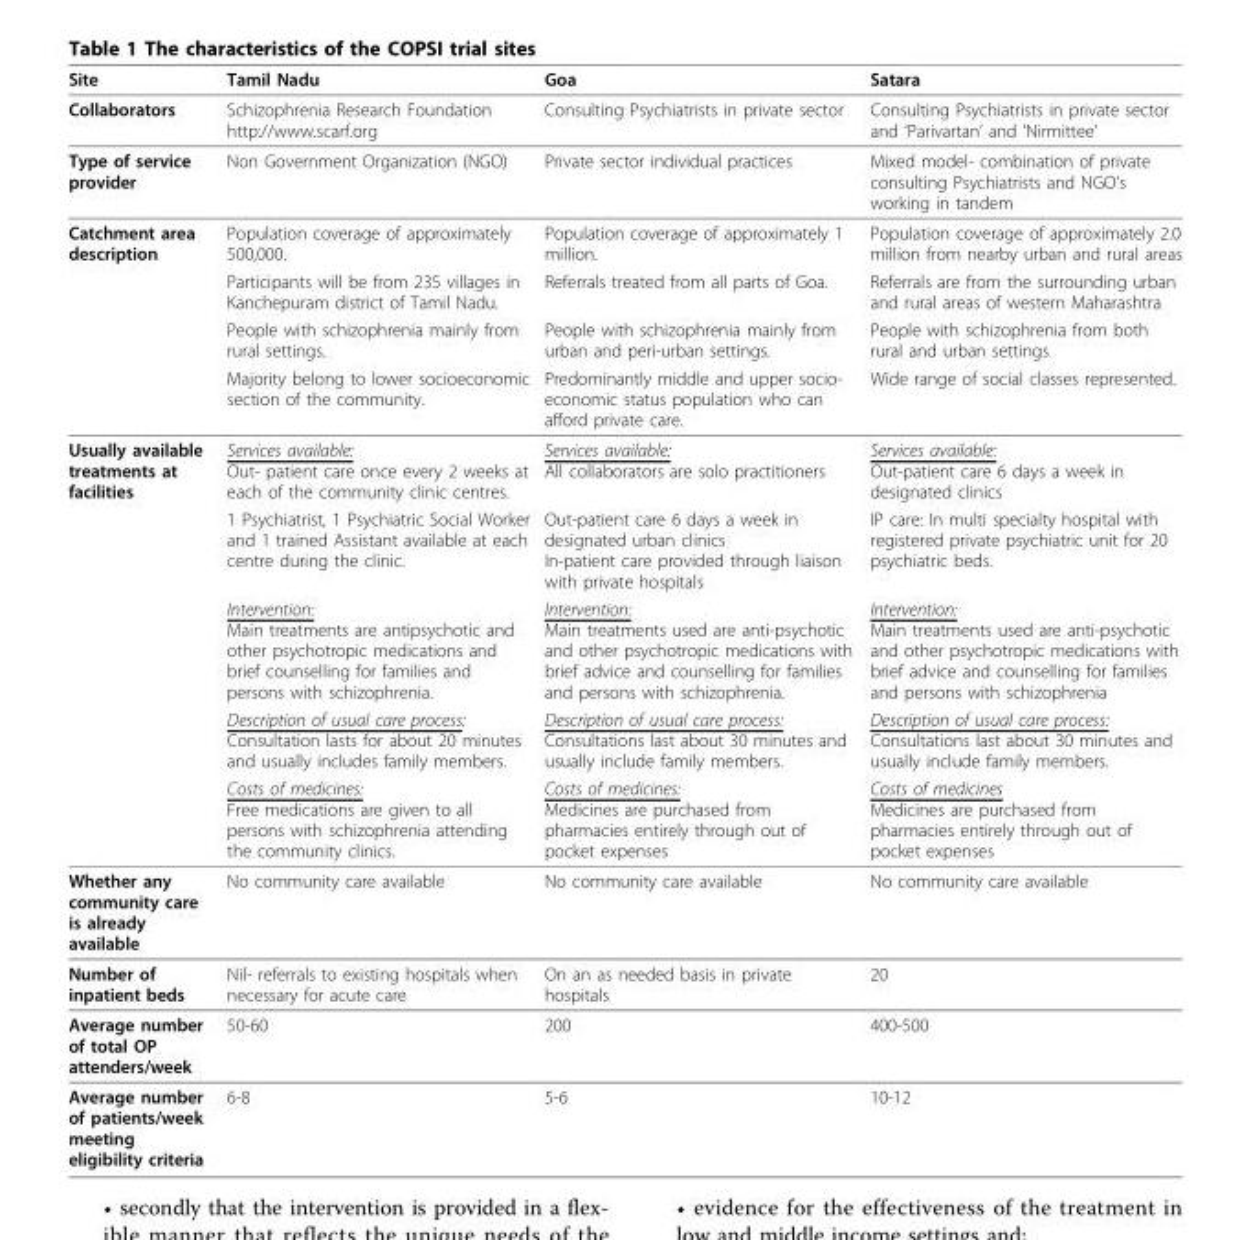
<table><thead><tr><td>Site</td><td>Tamil Nadu</td><td>Goa</td><td>Satara</td></tr></thead><tbody><tr><td>Collaborators</td><td>Schizophrenia Research Foundation http://www.scarf.org</td><td>Consulting Psychiatrists in private sector</td><td>Consulting Psychiatrists in private sector and ‘Parivartan’ and ‘Nirmittee’</td></tr><tr><td>Type of service provider</td><td>Non Government Organization (NGO)</td><td>Private sector individual practices</td><td>Mixed model- combination of private consulting Psychiatrists and NGO’s working in tandem</td></tr><tr><td rowspan="4">Catchment area description</td><td>Population coverage of approximately 500,000.</td><td>Population coverage of approximately 1 million.</td><td>Population coverage of approximately 2.0 million from nearby urban and rural areas</td></tr><tr><td>Participants will be from 235 villages in Kanchepuram district of Tamil Nadu.</td><td>Referrals treated from all parts of Goa.</td><td>Referrals are from the surrounding urban and rural areas of western Maharashtra</td></tr><tr><td>People with schizophrenia mainly from rural settings.</td><td>People with schizophrenia mainly from urban and peri-urban settings.</td><td>People with schizophrenia from both rural and urban settings</td></tr><tr><td>Majority belong to lower socioeconomic section of the community.</td><td>Predominantly middle and upper socio- economic status population who can afford private care.</td><td>Wide range of social classes represented.</td></tr><tr><td rowspan="5">Usually available treatments at facilities</td><td>Services available: Out- patient care once every 2 weeks at each of the community clinic centres.</td><td>Services available: All collaborators are solo practitioners</td><td>Services available: Out-patient care 6 days a week in designated clinics</td></tr><tr><td>1 Psychiatrist, 1 Psychiatric Social Worker and 1 trained Assistant available at each centre during the clinic.</td><td>Out-patient care 6 days a week in designated urban clinics In-patient care provided through liaison with private hospitals</td><td>IP care: In multi specialty hospital with registered private psychiatric unit for 20 psychiatric beds.</td></tr><tr><td>Intervention: Main treatments are antipsychotic and other psychotropic medications and brief counselling for families and persons with schizophrenia.</td><td>Intervention: Main treatments used are anti-psychotic and other psychotropic medications with brief advice and counselling for families and persons with schizophrenia.</td><td>Intervention: Main treatments used are anti-psychotic and other psychotropic medications with brief advice and counselling for families and persons with schizophrenia</td></tr><tr><td>Description of usual care process: Consultation lasts for about 20 minutes and usually includes family members.</td><td>Description of usual care process: Consultations last about 30 minutes and usually include family members.</td><td>Description of usual care process: Consultations last about 30 minutes and usually include family members.</td></tr><tr><td>Costs of medicines: Free medications are given to all persons with schizophrenia attending the community clinics.</td><td>Costs of medicines: Medicines are purchased from pharmacies entirely through out of pocket expenses</td><td>Costs of medicines Medicines are purchased from pharmacies entirely through out of pocket expenses</td></tr><tr><td>Whether any community care is already available</td><td>No community care available</td><td>No community care available</td><td>No community care available</td></tr><tr><td>Number of inpatient beds</td><td>Nil- referrals to existing hospitals when necessary for acute care</td><td>On an as needed basis in private hospitals</td><td>20</td></tr><tr><td>Average number of total OP attenders/week</td><td>50-60</td><td>200</td><td>400-500</td></tr><tr><td>Average number of patients/week meeting eligibility criteria</td><td>6-8</td><td>5-6</td><td>10-12</td></tr></tbody></table>